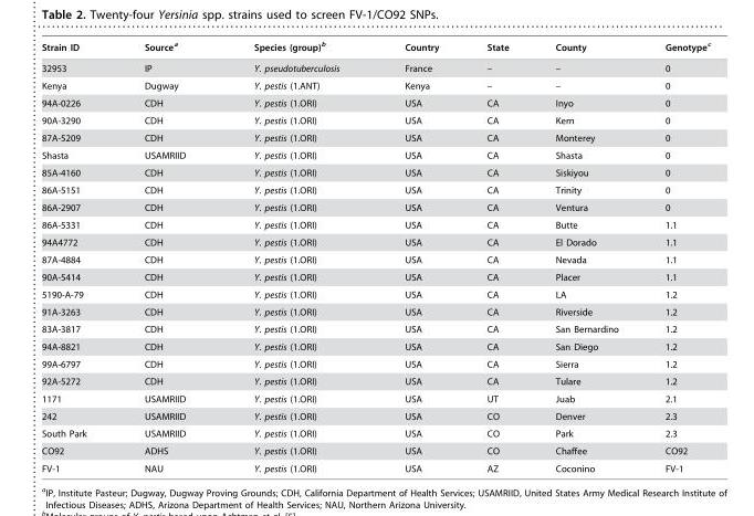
<table><thead><tr><td>Strain ID</td><td>Source<sup>a</sup></td><td>Species (group)<sup>b</sup></td><td>Country</td><td>State</td><td>County</td><td>Genotype<sup>c</sup></td></tr></thead><tbody><tr><td>32953</td><td>IP</td><td>Y. pseudotuberculosis</td><td>France</td><td>–</td><td>–</td><td>0</td></tr><tr><td>Kenya</td><td>Dugway</td><td>Y. pestis (1.ANT)</td><td>Kenya</td><td>–</td><td>–</td><td>0</td></tr><tr><td>94A-0226</td><td>CDH</td><td>Y. pestis (1.ORI)</td><td>USA</td><td>CA</td><td>Inyo</td><td>0</td></tr><tr><td>90A-3290</td><td>CDH</td><td>Y. pestis (1.ORI)</td><td>USA</td><td>CA</td><td>Kern</td><td>0</td></tr><tr><td>87A-5209</td><td>CDH</td><td>Y. pestis (1.ORI)</td><td>USA</td><td>CA</td><td>Monterey</td><td>0</td></tr><tr><td>Shasta</td><td>USAMRIID</td><td>Y. pestis (1.ORI)</td><td>USA</td><td>CA</td><td>Shasta</td><td>0</td></tr><tr><td>85A-4160</td><td>CDH</td><td>Y. pestis (1.ORI)</td><td>USA</td><td>CA</td><td>Siskiyou</td><td>0</td></tr><tr><td>86A-5151</td><td>CDH</td><td>Y. pestis (1.ORI)</td><td>USA</td><td>CA</td><td>Trinity</td><td>0</td></tr><tr><td>86A-2907</td><td>CDH</td><td>Y. pestis (1.ORI)</td><td>USA</td><td>CA</td><td>Ventura</td><td>0</td></tr><tr><td>86A-5331</td><td>CDH</td><td>Y. pestis (1.ORI)</td><td>USA</td><td>CA</td><td>Butte</td><td>1.1</td></tr><tr><td>94A4772</td><td>CDH</td><td>Y. pestis (1.ORI)</td><td>USA</td><td>CA</td><td>El Dorado</td><td>1.1</td></tr><tr><td>87A-4884</td><td>CDH</td><td>Y. pestis (1.ORI)</td><td>USA</td><td>CA</td><td>Nevada</td><td>1.1</td></tr><tr><td>90A-5414</td><td>CDH</td><td>Y. pestis (1.ORI)</td><td>USA</td><td>CA</td><td>Placer</td><td>1.1</td></tr><tr><td>5190-A-79</td><td>CDH</td><td>Y. pestis (1.ORI)</td><td>USA</td><td>CA</td><td>LA</td><td>1.2</td></tr><tr><td>91A-3263</td><td>CDH</td><td>Y. pestis (1.ORI)</td><td>USA</td><td>CA</td><td>Riverside</td><td>1.2</td></tr><tr><td>83A-3817</td><td>CDH</td><td>Y. pestis (1.ORI)</td><td>USA</td><td>CA</td><td>San Bernardino</td><td>1.2</td></tr><tr><td>94A-8821</td><td>CDH</td><td>Y. pestis (1.ORI)</td><td>USA</td><td>CA</td><td>San Diego</td><td>1.2</td></tr><tr><td>99A-6797</td><td>CDH</td><td>Y. pestis (1.ORI)</td><td>USA</td><td>CA</td><td>Sierra</td><td>1.2</td></tr><tr><td>92A-5272</td><td>CDH</td><td>Y. pestis (1.ORI)</td><td>USA</td><td>CA</td><td>Tulare</td><td>1.2</td></tr><tr><td>1171</td><td>USAMRIID</td><td>Y. pestis (1.ORI)</td><td>USA</td><td>UT</td><td>Juab</td><td>2.1</td></tr><tr><td>242</td><td>USAMRIID</td><td>Y. pestis (1.ORI)</td><td>USA</td><td>CO</td><td>Denver</td><td>2.3</td></tr><tr><td>South Park</td><td>USAMRIID</td><td>Y. pestis (1.ORI)</td><td>USA</td><td>CO</td><td>Park</td><td>2.3</td></tr><tr><td>CO92</td><td>ADHS</td><td>Y. pestis (1.ORI)</td><td>USA</td><td>CO</td><td>Chaffee</td><td>CO92</td></tr><tr><td>FV-1</td><td>NAU</td><td>Y. pestis (1.ORI)</td><td>USA</td><td>AZ</td><td>Coconino</td><td>FV-1</td></tr></tbody></table>